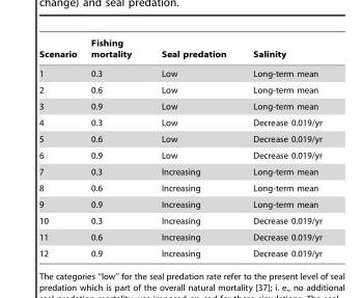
<table><thead><tr><td>Scenario</td><td>Fishing mortality</td><td>Seal predation</td><td>Salinity</td></tr></thead><tbody><tr><td>1</td><td>0.3</td><td>Low</td><td>Long-term mean</td></tr><tr><td>2</td><td>0.6</td><td>Low</td><td>Long-term mean</td></tr><tr><td>3</td><td>0.9</td><td>Low</td><td>Long-term mean</td></tr><tr><td>4</td><td>0.3</td><td>Low</td><td>Decrease 0.019/yr</td></tr><tr><td>5</td><td>0.6</td><td>Low</td><td>Decrease 0.019/yr</td></tr><tr><td>6</td><td>0.9</td><td>Low</td><td>Decrease 0.019/yr</td></tr><tr><td>7</td><td>0.3</td><td>Increasing</td><td>Long-term mean</td></tr><tr><td>8</td><td>0.6</td><td>Increasing</td><td>Long-term mean</td></tr><tr><td>9</td><td>0.9</td><td>Increasing</td><td>Long-term mean</td></tr><tr><td>10</td><td>0.3</td><td>Increasing</td><td>Decrease 0.019/yr</td></tr><tr><td>11</td><td>0.6</td><td>Increasing</td><td>Decrease 0.019/yr</td></tr><tr><td>12</td><td>0.9</td><td>Increasing</td><td>Decrease 0.019/yr</td></tr></tbody></table>